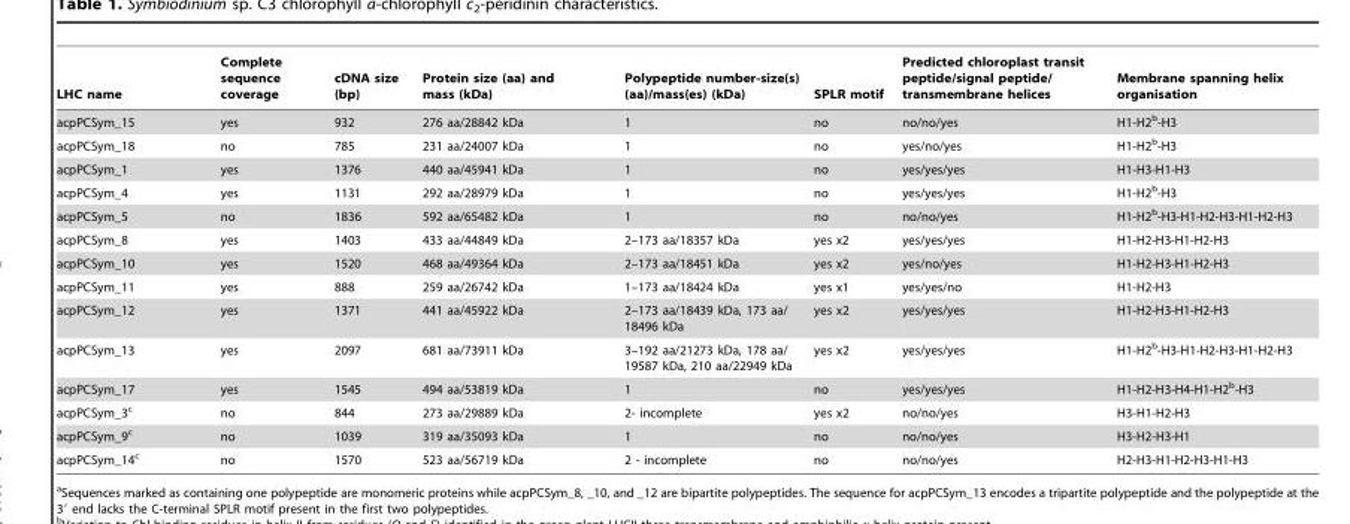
<table><thead><tr><td>LHC name</td><td>Complete sequence coverage</td><td>cDNA size (bp)</td><td>Protein size (aa) and mass (kDa)</td><td>Polypeptide number-size(s) (aa)/mass(es) (kDa)</td><td>SPLR motif</td><td>Predicted chloroplast transit peptide/signal peptide/ transmembrane helices</td><td>Membrane spanning helix organisation</td></tr></thead><tbody><tr><td>acpPCSym_15</td><td>yes</td><td>932</td><td>276 aa/28842 kDa</td><td>1</td><td>no</td><td>no/no/yes</td><td>H1-H2<sup>b</sup>-H3</td></tr><tr><td>acpPCSym_18</td><td>no</td><td>785</td><td>231 aa/24007 kDa</td><td>1</td><td>no</td><td>yes/no/yes</td><td>H1-H2<sup>b</sup>-H3</td></tr><tr><td>acpPCSym_1</td><td>yes</td><td>1376</td><td>440 aa/45941 kDa</td><td>1</td><td>no</td><td>yes/yes/yes</td><td>H1-H3-H1-H3</td></tr><tr><td>acpPCSym_4</td><td>yes</td><td>1131</td><td>292 aa/28979 kDa</td><td>1</td><td>no</td><td>yes/yes/yes</td><td>H1-H2<sup>b</sup>-H3</td></tr><tr><td>acpPCSym_5</td><td>no</td><td>1836</td><td>592 aa/65482 kDa</td><td>1</td><td>no</td><td>no/no/yes</td><td>H1-H2<sup>b</sup>-H3-H1-H2-H3-H1-H2-H3</td></tr><tr><td>acpPCSym_8</td><td>yes</td><td>1403</td><td>433 aa/44849 kDa</td><td>2–173 aa/18357 kDa</td><td>yes x2</td><td>yes/yes/yes</td><td>H1-H2-H3-H1-H2-H3</td></tr><tr><td>acpPCSym_10</td><td>yes</td><td>1520</td><td>468 aa/49364 kDa</td><td>2–173 aa/18451 kDa</td><td>yes x2</td><td>yes/no/yes</td><td>H1-H2-H3-H1-H2-H3</td></tr><tr><td>acpPCSym_11</td><td>yes</td><td>888</td><td>259 aa/26742 kDa</td><td>1–173 aa/18424 kDa</td><td>yes x1</td><td>yes/yes/no</td><td>H1-H2-H3</td></tr><tr><td>acpPCSym_12</td><td>yes</td><td>1371</td><td>441 aa/45922 kDa</td><td>2–173 aa/18439 kDa, 173 aa/ 18496 kDa</td><td>yes x2</td><td>yes/yes/yes</td><td>H1-H2-H3-H1-H2-H3</td></tr><tr><td>acpPCSym_13</td><td>yes</td><td>2097</td><td>681 aa/73911 kDa</td><td>3–192 aa/21273 kDa, 178 aa/ 19587 kDa, 210 aa/22949 kDa</td><td>yes x2</td><td>yes/yes/yes</td><td>H1-H2<sup>b</sup>-H3-H1-H2-H3-H1-H2-H3</td></tr><tr><td>acpPCSym_17</td><td>yes</td><td>1545</td><td>494 aa/53819 kDa</td><td>1</td><td>no</td><td>yes/yes/yes</td><td>H1-H2-H3-H4-H1-H2<sup>b</sup>-H3</td></tr><tr><td>acpPCSym_3<sup>c</sup></td><td>no</td><td>844</td><td>273 aa/29889 kDa</td><td>2- incomplete</td><td>yes x2</td><td>no/no/yes</td><td>H3-H1-H2-H3</td></tr><tr><td>acpPCSym_9<sup>c</sup></td><td>no</td><td>1039</td><td>319 aa/35093 kDa</td><td>1</td><td>no</td><td>no/no/yes</td><td>H3-H2-H3-H1</td></tr><tr><td>acpPCSym_14<sup>c</sup></td><td>no</td><td>1570</td><td>523 aa/56719 kDa</td><td>2 - incomplete</td><td>no</td><td>no/no/yes</td><td>H2-H3-H1-H2-H3-H1-H3</td></tr></tbody></table>